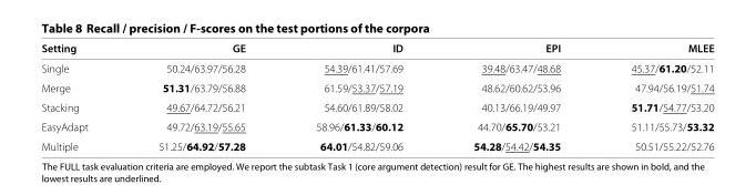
<table><thead><tr><td>Setting</td><td>GE</td><td>ID</td><td>EPI</td><td>MLEE</td></tr></thead><tbody><tr><td>Single</td><td>50.24/63.97/56.28</td><td>54.39/61.41/57.69</td><td>39.48/63.47/48.68</td><td>45.37/61.20/52.11</td></tr><tr><td>Merge</td><td>51.31/63.79/56.88</td><td>61.59/53.37/57.19</td><td>48.62/60.62/53.96</td><td>47.94/56.19/51.74</td></tr><tr><td>Stacking</td><td>49.67/64.72/56.21</td><td>54.60/61.89/58.02</td><td>40.13/66.19/49.97</td><td>51.71/54.77/53.20</td></tr><tr><td>EasyAdapt</td><td>49.72/63.19/55.65</td><td>58.96/61.33/60.12</td><td>44.70/65.70/53.21</td><td>51.11/55.73/53.32</td></tr><tr><td>Multiple</td><td>51.25/64.92/57.28</td><td>64.01/54.82/59.06</td><td>54.28/54.42/54.35</td><td>50.51/55.22/52.76</td></tr></tbody></table>